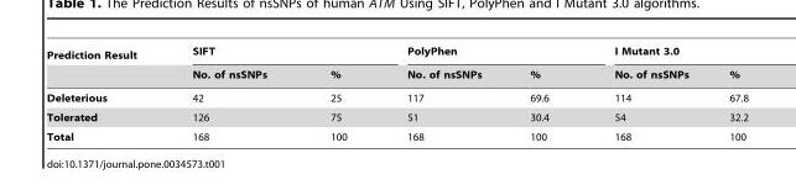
<table><thead><tr><td rowspan="2">Prediction Result</td><td colspan="2">SIFT</td><td colspan="2">PolyPhen</td><td colspan="2">I Mutant 3.0</td></tr><tr><td>No. of nsSNPs</td><td>%</td><td>No. of nsSNPs</td><td>%</td><td>No. of nsSNPs</td><td>%</td></tr></thead><tbody><tr><td>Deleterious</td><td>42</td><td>25</td><td>117</td><td>69.6</td><td>114</td><td>67.8</td></tr><tr><td>Tolerated</td><td>126</td><td>75</td><td>51</td><td>30.4</td><td>54</td><td>32.2</td></tr><tr><td>Total</td><td>168</td><td>100</td><td>168</td><td>100</td><td>168</td><td>100</td></tr></tbody></table>